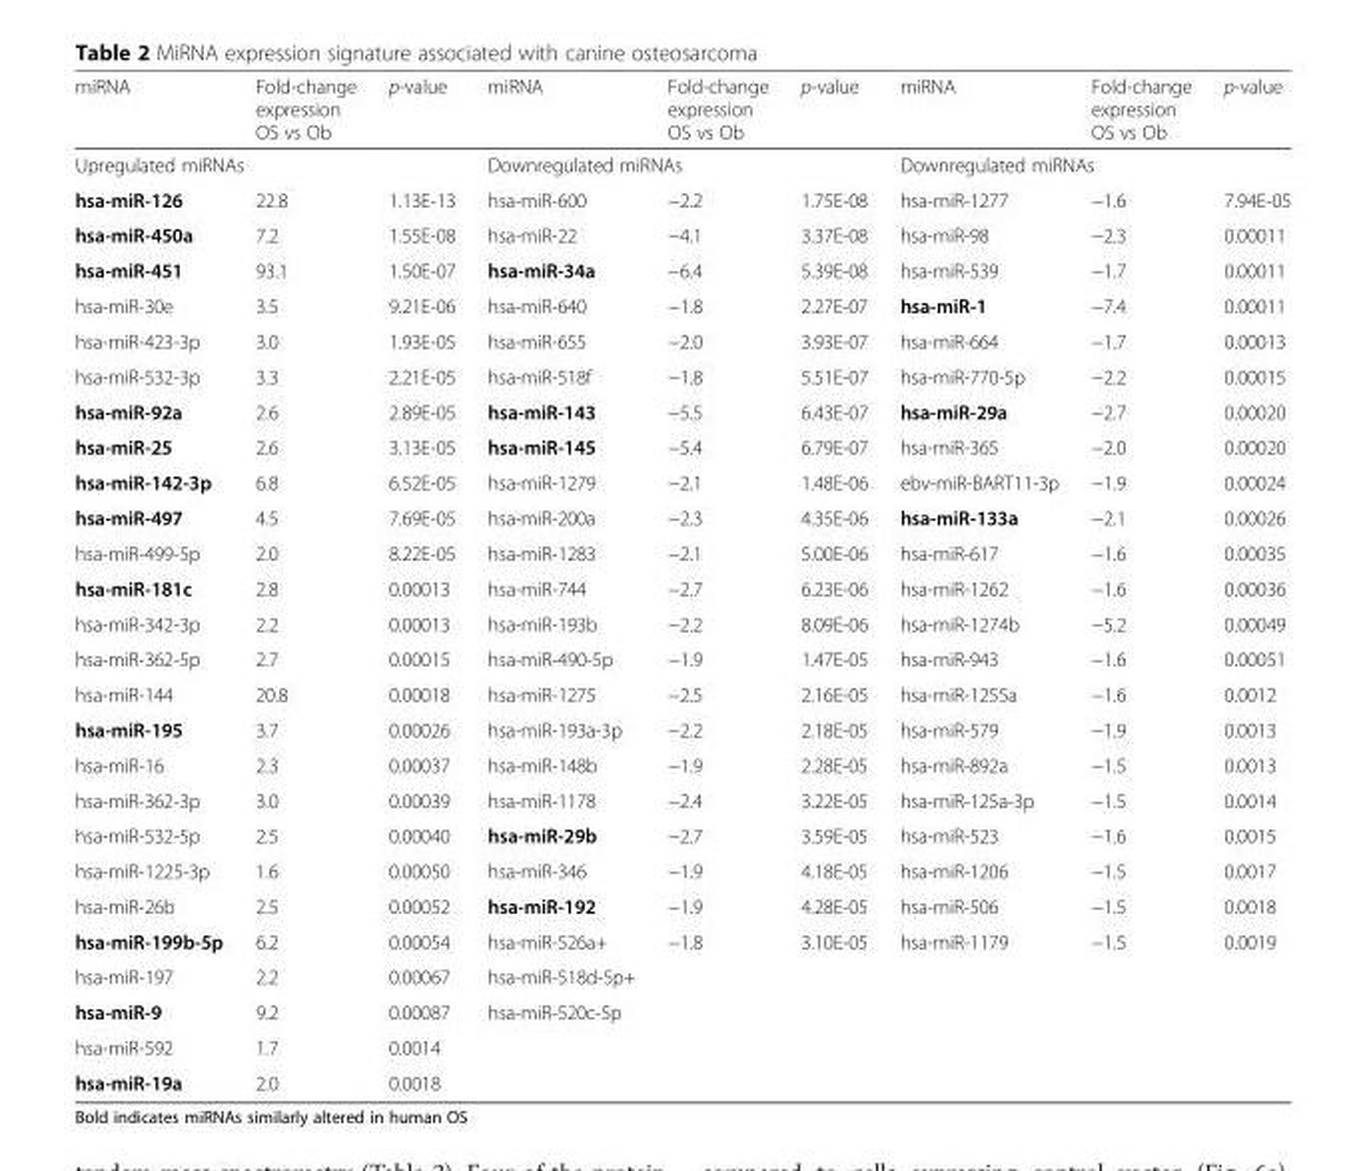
<table><thead><tr><td>miRNA</td><td>Fold-change expression OS vs Ob</td><td>p-value</td><td>miRNA</td><td>Fold-change expression OS vs Ob</td><td>p-value</td><td>miRNA</td><td>Fold-change expression OS vs Ob</td><td>p-value</td></tr></thead><tbody><tr><td colspan="3">Upregulated miRNAs</td><td colspan="3">Downregulated miRNAs</td><td colspan="3">Downregulated miRNAs</td></tr><tr><td>hsa-miR-126</td><td>22.8</td><td>1.13E-13</td><td>hsa-miR-600</td><td>−2.2</td><td>1.75E-08</td><td>hsa-miR-1277</td><td>−1.6</td><td>7.94E-05</td></tr><tr><td>hsa-miR-450a</td><td>7.2</td><td>1.55E-08</td><td>hsa-miR-22</td><td>−4.1</td><td>3.37E-08</td><td>hsa-miR-98</td><td>−2.3</td><td>0.00011</td></tr><tr><td>hsa-miR-451</td><td>93.1</td><td>1.50E-07</td><td>hsa-miR-34a</td><td>−6.4</td><td>5.39E-08</td><td>hsa-miR-539</td><td>−1.7</td><td>0.00011</td></tr><tr><td>hsa-miR-30e</td><td>3.5</td><td>9.21E-06</td><td>hsa-miR-640</td><td>−1.8</td><td>2.27E-07</td><td>hsa-miR-1</td><td>−7.4</td><td>0.00011</td></tr><tr><td>hsa-miR-423-3p</td><td>3.0</td><td>1.93E-05</td><td>hsa-miR-655</td><td>−2.0</td><td>3.93E-07</td><td>hsa-miR-664</td><td>−1.7</td><td>0.00013</td></tr><tr><td>hsa-miR-532-3p</td><td>3.3</td><td>2.21E-05</td><td>hsa-miR-518f</td><td>−1.8</td><td>5.51E-07</td><td>hsa-miR-770-5p</td><td>−2.2</td><td>0.00015</td></tr><tr><td>hsa-miR-92a</td><td>2.6</td><td>2.89E-05</td><td>hsa-miR-143</td><td>−5.5</td><td>6.43E-07</td><td>hsa-miR-29a</td><td>−2.7</td><td>0.00020</td></tr><tr><td>hsa-miR-25</td><td>2.6</td><td>3.13E-05</td><td>hsa-miR-145</td><td>−5.4</td><td>6.79E-07</td><td>hsa-miR-365</td><td>−2.0</td><td>0.00020</td></tr><tr><td>hsa-miR-142-3p</td><td>6.8</td><td>6.52E-05</td><td>hsa-miR-1279</td><td>−2.1</td><td>1.48E-06</td><td>ebv-miR-BART11-3p</td><td>−1.9</td><td>0.00024</td></tr><tr><td>hsa-miR-497</td><td>4.5</td><td>7.69E-05</td><td>hsa-miR-200a</td><td>−2.3</td><td>4.35E-06</td><td>hsa-miR-133a</td><td>−2.1</td><td>0.00026</td></tr><tr><td>hsa-miR-499-5p</td><td>2.0</td><td>8.22E-05</td><td>hsa-miR-1283</td><td>−2.1</td><td>5.00E-06</td><td>hsa-miR-617</td><td>−1.6</td><td>0.00035</td></tr><tr><td>hsa-miR-181c</td><td>2.8</td><td>0.00013</td><td>hsa-miR-744</td><td>−2.7</td><td>6.23E-06</td><td>hsa-miR-1262</td><td>−1.6</td><td>0.00036</td></tr><tr><td>hsa-miR-342-3p</td><td>2.2</td><td>0.00013</td><td>hsa-miR-193b</td><td>−2.2</td><td>8.09E-06</td><td>hsa-miR-1274b</td><td>−5.2</td><td>0.00049</td></tr><tr><td>hsa-miR-362-5p</td><td>2.7</td><td>0.00015</td><td>hsa-miR-490-5p</td><td>−1.9</td><td>1.47E-05</td><td>hsa-miR-943</td><td>−1.6</td><td>0.00051</td></tr><tr><td>hsa-miR-144</td><td>20.8</td><td>0.00018</td><td>hsa-miR-1275</td><td>−2.5</td><td>2.16E-05</td><td>hsa-miR-1255a</td><td>−1.6</td><td>0.0012</td></tr><tr><td>hsa-miR-195</td><td>3.7</td><td>0.00026</td><td>hsa-miR-193a-3p</td><td>−2.2</td><td>2.18E-05</td><td>hsa-miR-579</td><td>−1.9</td><td>0.0013</td></tr><tr><td>hsa-miR-16</td><td>2.3</td><td>0.00037</td><td>hsa-miR-148b</td><td>−1.9</td><td>2.28E-05</td><td>hsa-miR-892a</td><td>−1.5</td><td>0.0013</td></tr><tr><td>hsa-miR-362-3p</td><td>3.0</td><td>0.00039</td><td>hsa-miR-1178</td><td>−2.4</td><td>3.22E-05</td><td>hsa-miR-125a-3p</td><td>−1.5</td><td>0.0014</td></tr><tr><td>hsa-miR-532-5p</td><td>2.5</td><td>0.00040</td><td>hsa-miR-29b</td><td>−2.7</td><td>3.59E-05</td><td>hsa-miR-523</td><td>−1.6</td><td>0.0015</td></tr><tr><td>hsa-miR-1225-3p</td><td>1.6</td><td>0.00050</td><td>hsa-miR-346</td><td>−1.9</td><td>4.18E-05</td><td>hsa-miR-1206</td><td>−1.5</td><td>0.0017</td></tr><tr><td>hsa-miR-26b</td><td>2.5</td><td>0.00052</td><td>hsa-miR-192</td><td>−1.9</td><td>4.28E-05</td><td>hsa-miR-506</td><td>−1.5</td><td>0.0018</td></tr><tr><td>hsa-miR-199b-5p</td><td>6.2</td><td>0.00054</td><td>hsa-miR-526a+</td><td>−1.8</td><td>3.10E-05</td><td>hsa-miR-1179</td><td>−1.5</td><td>0.0019</td></tr><tr><td>hsa-miR-197</td><td>2.2</td><td>0.00067</td><td>hsa-miR-518d-5p+</td><td></td><td></td><td></td><td></td><td></td></tr><tr><td>hsa-miR-9</td><td>9.2</td><td>0.00087</td><td>hsa-miR-520c-5p</td><td></td><td></td><td></td><td></td><td></td></tr><tr><td>hsa-miR-592</td><td>1.7</td><td>0.0014</td><td></td><td></td><td></td><td></td><td></td><td></td></tr><tr><td>hsa-miR-19a</td><td>2.0</td><td>0.0018</td><td></td><td></td><td></td><td></td><td></td><td></td></tr></tbody></table>